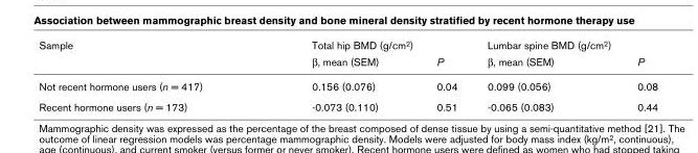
<table><thead><tr><td rowspan="2">Sample</td><td colspan="2">Total hip BMD (g/cm2)</td><td colspan="2">Lumbar spine BMD (g/cm2)</td></tr><tr><td>β, mean (SEM)</td><td>P</td><td>β, mean (SEM)</td><td>P</td></tr></thead><tbody><tr><td>Not recent hormone users (n = 417)</td><td>0.156 (0.076)</td><td>0.04</td><td>0.099 (0.056)</td><td>0.08</td></tr><tr><td>Recent hormone users (n = 173)</td><td>-0.073 (0.110)</td><td>0.51</td><td>-0.065 (0.083)</td><td>0.44</td></tr></tbody></table>